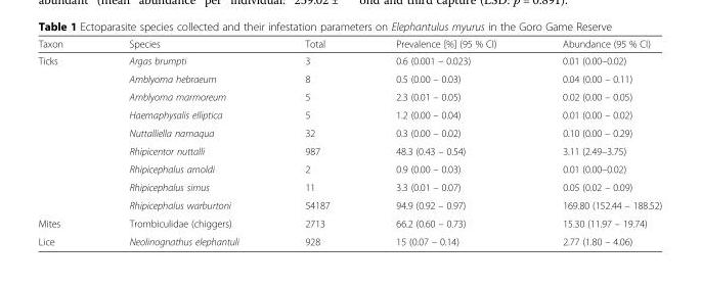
<table><thead><tr><td>Taxon</td><td>Species</td><td>Total</td><td>Prevalence [%] (95 % CI)</td><td>Abundance (95 % CI)</td></tr></thead><tbody><tr><td rowspan="9">Ticks</td><td>Argas brumpti</td><td>3</td><td>0.6 (0.001 – 0.023)</td><td>0.01 (0.00–0.02)</td></tr><tr><td>Amblyoma hebraeum</td><td>8</td><td>0.5 (0.00 – 0.03)</td><td>0.04 (0.00 – 0.11)</td></tr><tr><td>Amblyoma marmoreum</td><td>5</td><td>2.3 (0.01 – 0.05)</td><td>0.02 (0.00 – 0.05)</td></tr><tr><td>Haemaphysalis elliptica</td><td>5</td><td>1.2 (0.00 – 0.04)</td><td>0.01 (0.00 – 0.02)</td></tr><tr><td>Nuttalliella namaqua</td><td>32</td><td>0.3 (0.00 – 0.02)</td><td>0.10 (0.00 – 0.29)</td></tr><tr><td>Rhipicentor nuttalli</td><td>987</td><td>48.3 (0.43 – 0.54)</td><td>3.11 (2.49–3.75)</td></tr><tr><td>Rhipicephalus arnoldi</td><td>2</td><td>0.9 (0.00 – 0.03)</td><td>0.01 (0.00–0.02)</td></tr><tr><td>Rhipicephalus simus</td><td>11</td><td>3.3 (0.01 – 0.07)</td><td>0.05 (0.02 – 0.09)</td></tr><tr><td>Rhipicephalus warburtoni</td><td>54187</td><td>94.9 (0.92 – 0.97)</td><td>169.80 (152.44 – 188.52)</td></tr><tr><td>Mites</td><td>Trombiculidae (chiggers)</td><td>2713</td><td>66.2 (0.60 – 0.73)</td><td>15.30 (11.97 – 19.74)</td></tr><tr><td>Lice</td><td>Neolinognathus elephantuli</td><td>928</td><td>15 (0.07 – 0.14)</td><td>2.77 (1.80 – 4.06)</td></tr></tbody></table>